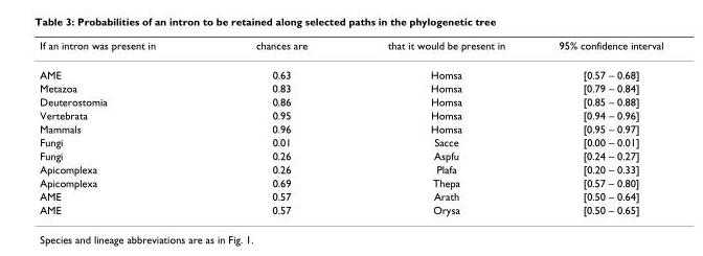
<table><thead><tr><td>If an intron was present in</td><td>chances are</td><td>that it would be present in</td><td>95% confidence interval</td></tr></thead><tbody><tr><td>AME</td><td>0.63</td><td>Homsa</td><td>[0.57 – 0.68]</td></tr><tr><td>Metazoa</td><td>0.83</td><td>Homsa</td><td>[0.79 – 0.84]</td></tr><tr><td>Deuterostomia</td><td>0.86</td><td>Homsa</td><td>[0.85 – 0.88]</td></tr><tr><td>Vertebrata</td><td>0.95</td><td>Homsa</td><td>[0.94 – 0.96]</td></tr><tr><td>Mammals</td><td>0.96</td><td>Homsa</td><td>[0.95 – 0.97]</td></tr><tr><td>Fungi</td><td>0.01</td><td>Sacce</td><td>[0.00 – 0.01]</td></tr><tr><td>Fungi</td><td>0.26</td><td>Aspfu</td><td>[0.24 – 0.27]</td></tr><tr><td>Apicomplexa</td><td>0.26</td><td>Plafa</td><td>[0.20 – 0.33]</td></tr><tr><td>Apicomplexa</td><td>0.69</td><td>Thepa</td><td>[0.57 – 0.80]</td></tr><tr><td>AME</td><td>0.57</td><td>Arath</td><td>[0.50 – 0.64]</td></tr><tr><td>AME</td><td>0.57</td><td>Orysa</td><td>[0.50 – 0.65]</td></tr></tbody></table>